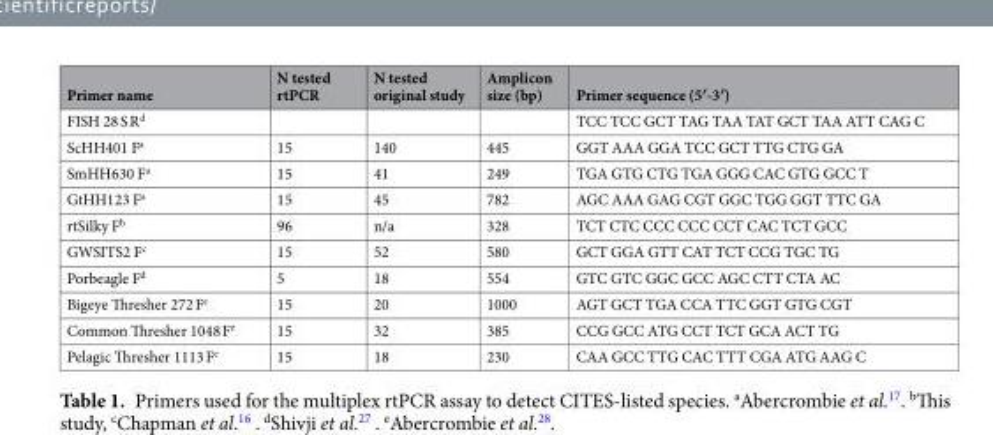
<table><thead><tr><td>Primer name</td><td>N tested rtPCR</td><td>N tested original study</td><td>Amplicon size (bp)</td><td>Primer sequence (5′-3′)</td></tr></thead><tbody><tr><td>FISH 28 S R<sup>d</sup></td><td></td><td></td><td></td><td>TCC TCC GCT TAG TAA TAT GCT TAA ATT CAG C</td></tr><tr><td>ScHH401 F<sup>a</sup></td><td>15</td><td>140</td><td>445</td><td>GGT AAA GGA TCC GCT TTG CTG GA</td></tr><tr><td>SmHH630 F<sup>a</sup></td><td>15</td><td>41</td><td>249</td><td>TGA GTG CTG TGA GGG CAC GTG GCC T</td></tr><tr><td>GtHH123 F<sup>a</sup></td><td>15</td><td>45</td><td>782</td><td>AGC AAA GAG CGT GGC TGG GGT TTC GA</td></tr><tr><td>rtSilky F<sup>b</sup></td><td>96</td><td>n/a</td><td>328</td><td>TCT CTC CCC CCC CCT CAC TCT GCC</td></tr><tr><td>GWSITS2 F<sup>c</sup></td><td>15</td><td>52</td><td>580</td><td>GCT GGA GTT CAT TCT CCG TGC TG</td></tr><tr><td>Porbeagle F<sup>d</sup></td><td>5</td><td>18</td><td>554</td><td>GTC GTC GGC GCC AGC CTT CTA AC</td></tr><tr><td>Bigeye Thresher 272 F<sup>e</sup></td><td>15</td><td>20</td><td>1000</td><td>AGT GCT TGA CCA TTC GGT GTG CGT</td></tr><tr><td>Common Thresher 1048 F<sup>e</sup></td><td>15</td><td>32</td><td>385</td><td>CCG GCC ATG CCT TCT GCA ACT TG</td></tr><tr><td>Pelagic Thresher 1113 F<sup>e</sup></td><td>15</td><td>18</td><td>230</td><td>CAA GCC TTG CAC TTT CGA ATG AAG C</td></tr></tbody></table>